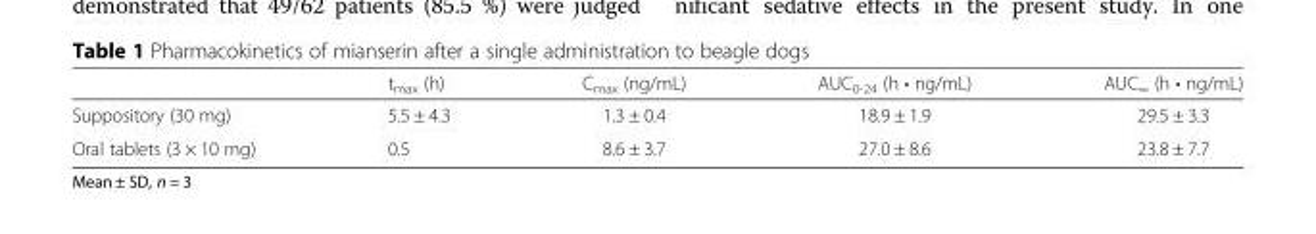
<table><thead><tr><td></td><td>t<sub>max</sub> (h)</td><td>C<sub>max</sub> (ng/mL)</td><td>AUC<sub>0-24</sub> (h • ng/mL)</td><td>AUC<sub>∞</sub> (h • ng/mL)</td></tr></thead><tbody><tr><td>Suppository (30 mg)</td><td>5.5 ± 4.3</td><td>1.3 ± 0.4</td><td>18.9 ± 1.9</td><td>29.5 ± 3.3</td></tr><tr><td>Oral tablets (3 × 10 mg)</td><td>0.5</td><td>8.6 ± 3.7</td><td>27.0 ± 8.6</td><td>23.8 ± 7.7</td></tr></tbody></table>